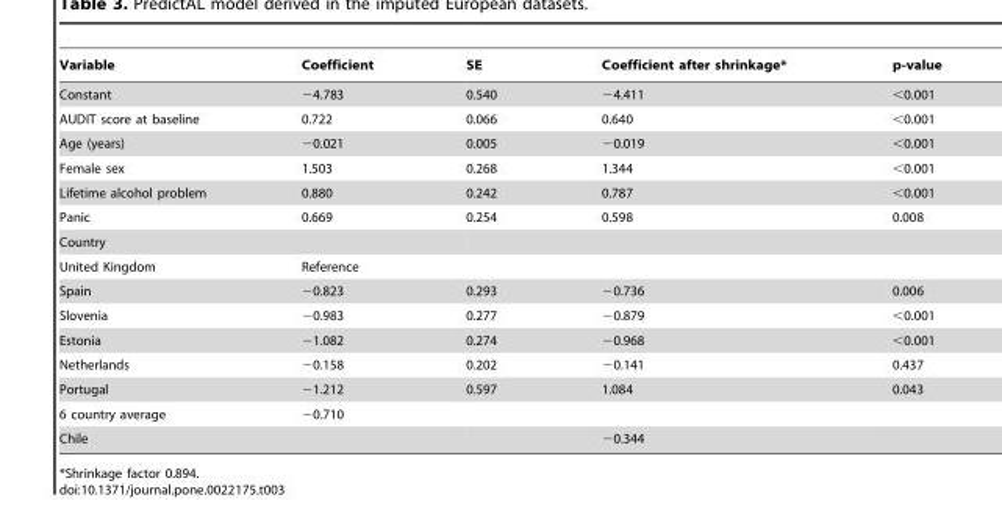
<table><thead><tr><td>Variable</td><td>Coefficient</td><td>SE</td><td>Coefficient after shrinkage*</td><td>p-value</td></tr></thead><tbody><tr><td>Constant</td><td>−4.783</td><td>0.540</td><td>−4.411</td><td>&lt;0.001</td></tr><tr><td>AUDIT score at baseline</td><td>0.722</td><td>0.066</td><td>0.640</td><td>&lt;0.001</td></tr><tr><td>Age (years)</td><td>−0.021</td><td>0.005</td><td>−0.019</td><td>&lt;0.001</td></tr><tr><td>Female sex</td><td>1.503</td><td>0.268</td><td>1.344</td><td>&lt;0.001</td></tr><tr><td>Lifetime alcohol problem</td><td>0.880</td><td>0.242</td><td>0.787</td><td>&lt;0.001</td></tr><tr><td>Panic</td><td>0.669</td><td>0.254</td><td>0.598</td><td>0.008</td></tr><tr><td colspan="5">Country</td></tr><tr><td>United Kingdom</td><td>Reference</td><td></td><td></td><td></td></tr><tr><td>Spain</td><td>−0.823</td><td>0.293</td><td>−0.736</td><td>0.006</td></tr><tr><td>Slovenia</td><td>−0.983</td><td>0.277</td><td>−0.879</td><td>&lt;0.001</td></tr><tr><td>Estonia</td><td>−1.082</td><td>0.274</td><td>−0.968</td><td>&lt;0.001</td></tr><tr><td>Netherlands</td><td>−0.158</td><td>0.202</td><td>−0.141</td><td>0.437</td></tr><tr><td>Portugal</td><td>−1.212</td><td>0.597</td><td>1.084</td><td>0.043</td></tr><tr><td>6 country average</td><td>−0.710</td><td></td><td></td><td></td></tr><tr><td>Chile</td><td></td><td></td><td>−0.344</td><td></td></tr></tbody></table>